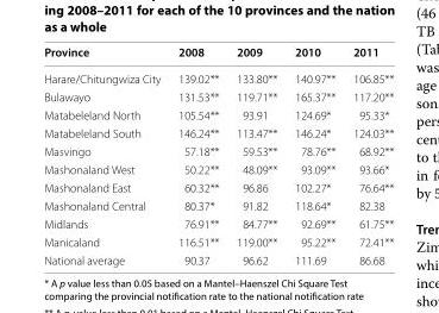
<table><thead><tr><td>Province</td><td>2008</td><td>2009</td><td>2010</td><td>2011</td></tr></thead><tbody><tr><td>Harare/Chitungwiza City</td><td>139.02**</td><td>133.80**</td><td>140.97**</td><td>106.85**</td></tr><tr><td>Bulawayo</td><td>131.53**</td><td>119.71**</td><td>165.37**</td><td>117.20**</td></tr><tr><td>Matabeleland North</td><td>105.54**</td><td>93.91</td><td>124.69*</td><td>95.33*</td></tr><tr><td>Matabeleland South</td><td>146.24**</td><td>113.47**</td><td>146.24*</td><td>124.03**</td></tr><tr><td>Masvingo</td><td>57.18**</td><td>59.53**</td><td>78.76**</td><td>68.92**</td></tr><tr><td>Mashonaland West</td><td>50.22**</td><td>48.09**</td><td>93.09**</td><td>93.66*</td></tr><tr><td>Mashonaland East</td><td>60.32**</td><td>96.86</td><td>102.27*</td><td>76.64**</td></tr><tr><td>Mashonaland Central</td><td>80.37*</td><td>91.82</td><td>118.64*</td><td>82.38</td></tr><tr><td>Midlands</td><td>76.91**</td><td>84.77**</td><td>92.69**</td><td>61.75**</td></tr><tr><td>Manicaland</td><td>116.51**</td><td>119.00**</td><td>95.22**</td><td>72.41**</td></tr><tr><td>National average</td><td>90.37</td><td>96.62</td><td>111.69</td><td>86.68</td></tr></tbody></table>